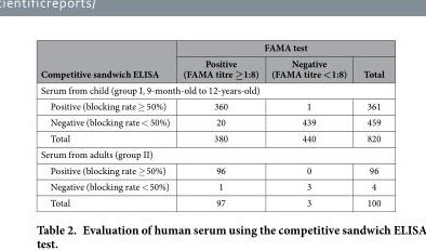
<table><thead><tr><td rowspan="2">Competitive sandwich ELISA</td><td colspan="3">FAMA test</td></tr><tr><td>Positive (FAMA titre ≥1:8)</td><td>Negative (FAMA titre &lt;1:8)</td><td>Total</td></tr></thead><tbody><tr><td colspan="4">Serum from child (group I, 9-month-old to 12-years-old)</td></tr><tr><td>Positive (blocking rate ≥ 50%)</td><td>360</td><td>1</td><td>361</td></tr><tr><td>Negative (blocking rate &lt; 50%)</td><td>20</td><td>439</td><td>459</td></tr><tr><td>Total</td><td>380</td><td>440</td><td>820</td></tr><tr><td colspan="4">Serum from adults (group II)</td></tr><tr><td>Positive (blocking rate ≥ 50%)</td><td>96</td><td>0</td><td>96</td></tr><tr><td>Negative (blocking rate &lt; 50%)</td><td>1</td><td>3</td><td>4</td></tr><tr><td>Total</td><td>97</td><td>3</td><td>100</td></tr></tbody></table>